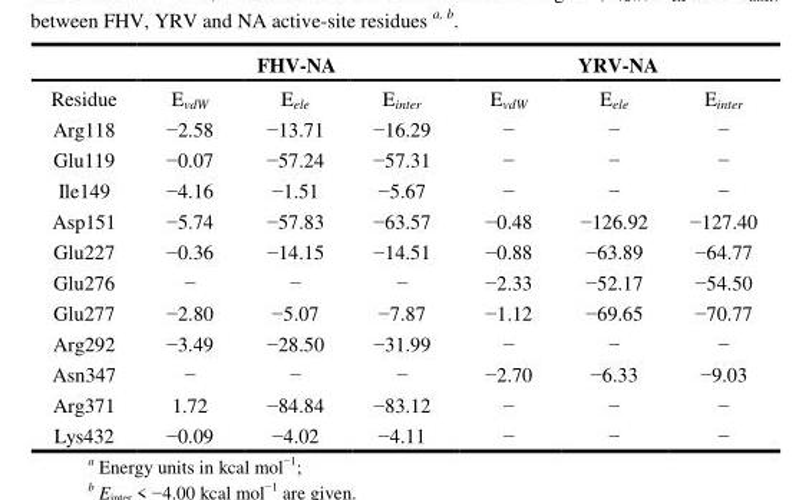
<table><thead><tr><td rowspan="2">Residue</td><td colspan="3">FHV-NA</td><td colspan="3">YRV-NA</td></tr><tr><td>E<sub>vdW</sub></td><td>E<sub>ele</sub></td><td>E<sub>inter</sub></td><td>E<sub>vdW</sub></td><td>E<sub>ele</sub></td><td>E<sub>inter</sub></td></tr></thead><tbody><tr><td>Arg118</td><td>−2.58</td><td>−13.71</td><td>−16.29</td><td>−</td><td>−</td><td>−</td></tr><tr><td>Glu119</td><td>−0.07</td><td>−57.24</td><td>−57.31</td><td>−</td><td>−</td><td>−</td></tr><tr><td>Ile149</td><td>−4.16</td><td>−1.51</td><td>−5.67</td><td>−</td><td>−</td><td>−</td></tr><tr><td>Asp151</td><td>−5.74</td><td>−57.83</td><td>−63.57</td><td>−0.48</td><td>−126.92</td><td>−127.40</td></tr><tr><td>Glu227</td><td>−0.36</td><td>−14.15</td><td>−14.51</td><td>−0.88</td><td>−63.89</td><td>−64.77</td></tr><tr><td>Glu276</td><td>−</td><td>−</td><td>−</td><td>−2.33</td><td>−52.17</td><td>−54.50</td></tr><tr><td>Glu277</td><td>−2.80</td><td>−5.07</td><td>−7.87</td><td>−1.12</td><td>−69.65</td><td>−70.77</td></tr><tr><td>Arg292</td><td>−3.49</td><td>−28.50</td><td>−31.99</td><td>−</td><td>−</td><td>−</td></tr><tr><td>Asn347</td><td>−</td><td>−</td><td>−</td><td>−2.70</td><td>−6.33</td><td>−9.03</td></tr><tr><td>Arg371</td><td>1.72</td><td>−84.84</td><td>−83.12</td><td>−</td><td>−</td><td>−</td></tr><tr><td>Lys432</td><td>−0.09</td><td>−4.02</td><td>−4.11</td><td>−</td><td>−</td><td>−</td></tr></tbody></table>